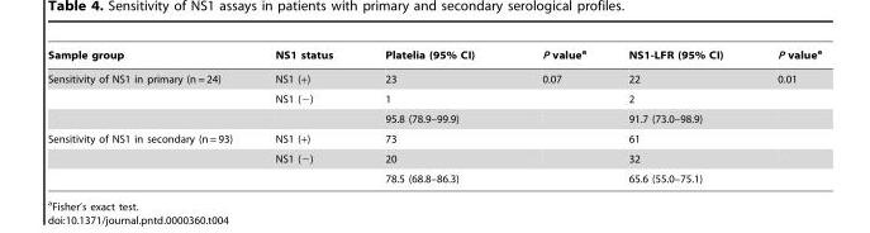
<table><thead><tr><td>Sample group</td><td>NS1 status</td><td>Platelia (95% CI)</td><td>P value<sup>a</sup></td><td>NS1-LFR (95% CI)</td><td>P value<sup>a</sup></td></tr></thead><tbody><tr><td rowspan="3">Sensitivity of NS1 in primary (n = 24)</td><td>NS1 (+)</td><td>23</td><td>0.07</td><td>22</td><td>0.01</td></tr><tr><td>NS1 (−)</td><td>1</td><td></td><td>2</td><td></td></tr><tr><td></td><td>95.8 (78.9–99.9)</td><td></td><td>91.7 (73.0–98.9)</td><td></td></tr><tr><td rowspan="3">Sensitivity of NS1 in secondary (n = 93)</td><td>NS1 (+)</td><td>73</td><td></td><td>61</td><td></td></tr><tr><td>NS1 (−)</td><td>20</td><td></td><td>32</td><td></td></tr><tr><td></td><td>78.5 (68.8–86.3)</td><td></td><td>65.6 (55.0–75.1)</td><td></td></tr></tbody></table>